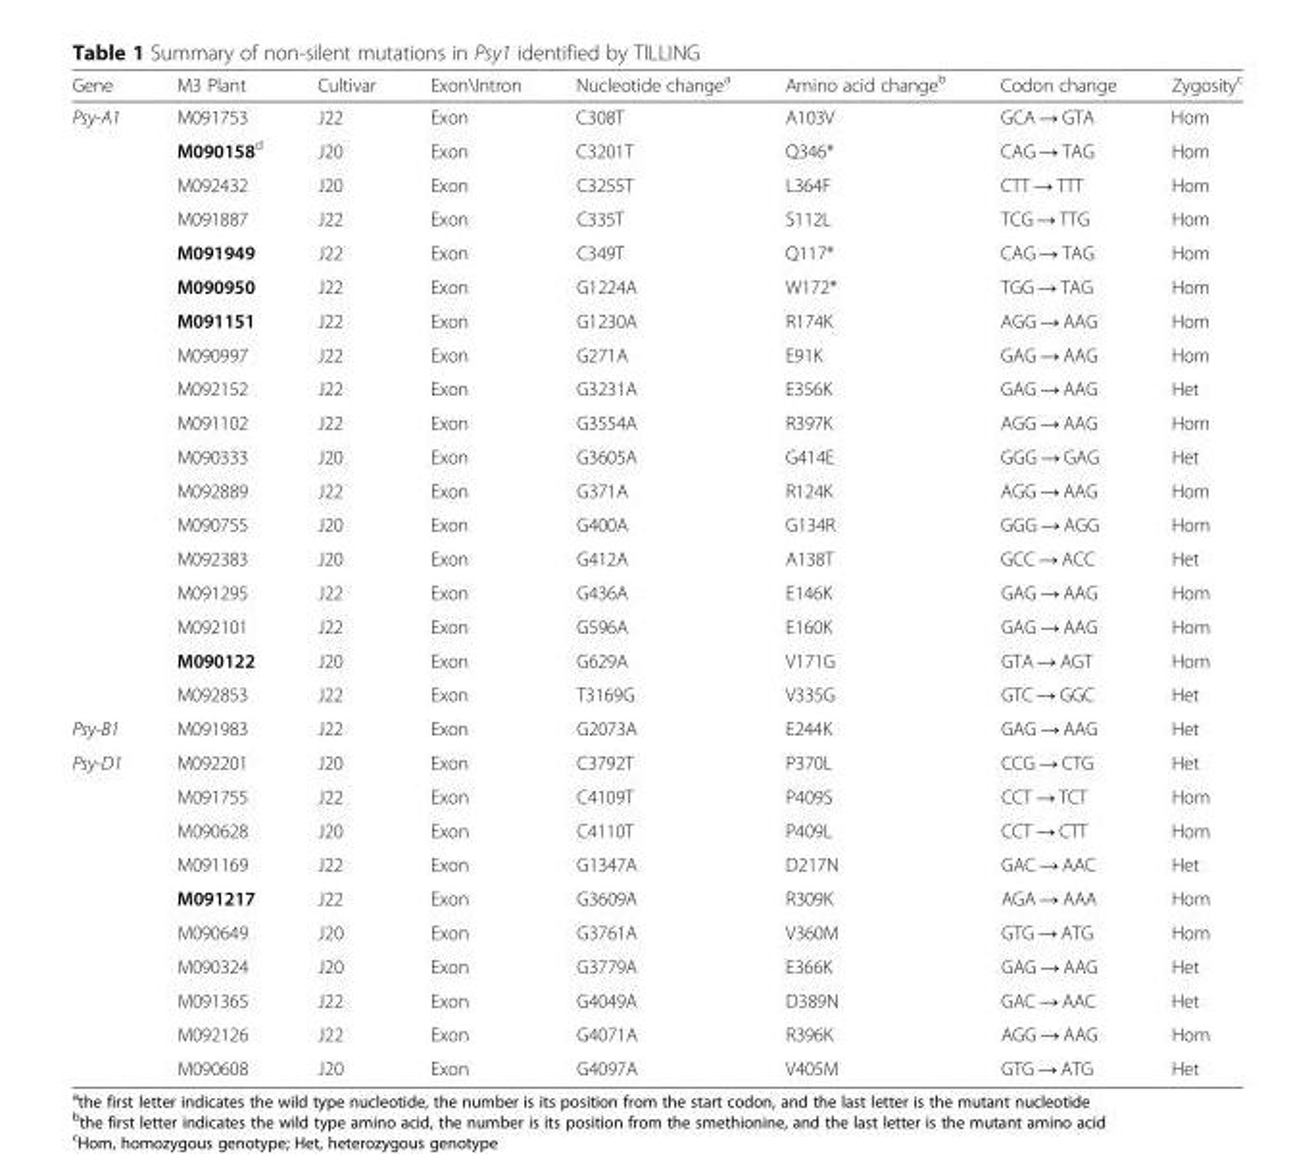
<table><thead><tr><td>Gene</td><td>M3 Plant</td><td>Cultivar</td><td>Exon\Intron</td><td>Nucleotide change<sup>a</sup></td><td>Amino acid change<sup>b</sup></td><td>Codon change</td><td>Zygosity<sup>c</sup></td></tr></thead><tbody><tr><td rowspan="18">Psy-A1</td><td>M091753</td><td>J22</td><td>Exon</td><td>C308T</td><td>A103V</td><td>GCA → GTA</td><td>Hom</td></tr><tr><td>M090158<sup>d</sup></td><td>J20</td><td>Exon</td><td>C3201T</td><td>Q346*</td><td>CAG → TAG</td><td>Hom</td></tr><tr><td>M092432</td><td>J20</td><td>Exon</td><td>C3255T</td><td>L364F</td><td>CTT → TTT</td><td>Hom</td></tr><tr><td>M091887</td><td>J22</td><td>Exon</td><td>C335T</td><td>S112L</td><td>TCG → TTG</td><td>Hom</td></tr><tr><td>M091949</td><td>J22</td><td>Exon</td><td>C349T</td><td>Q117*</td><td>CAG → TAG</td><td>Hom</td></tr><tr><td>M090950</td><td>J22</td><td>Exon</td><td>G1224A</td><td>W172*</td><td>TGG → TAG</td><td>Hom</td></tr><tr><td>M091151</td><td>J22</td><td>Exon</td><td>G1230A</td><td>R174K</td><td>AGG → AAG</td><td>Hom</td></tr><tr><td>M090997</td><td>J22</td><td>Exon</td><td>G271A</td><td>E91K</td><td>GAG → AAG</td><td>Hom</td></tr><tr><td>M092152</td><td>J22</td><td>Exon</td><td>G3231A</td><td>E356K</td><td>GAG → AAG</td><td>Het</td></tr><tr><td>M091102</td><td>J22</td><td>Exon</td><td>G3554A</td><td>R397K</td><td>AGG → AAG</td><td>Hom</td></tr><tr><td>M090333</td><td>J20</td><td>Exon</td><td>G3605A</td><td>G414E</td><td>GGG → GAG</td><td>Het</td></tr><tr><td>M092889</td><td>J22</td><td>Exon</td><td>G371A</td><td>R124K</td><td>AGG → AAG</td><td>Hom</td></tr><tr><td>M090755</td><td>J20</td><td>Exon</td><td>G400A</td><td>G134R</td><td>GGG → AGG</td><td>Hom</td></tr><tr><td>M092383</td><td>J20</td><td>Exon</td><td>G412A</td><td>A138T</td><td>GCC → ACC</td><td>Het</td></tr><tr><td>M091295</td><td>J22</td><td>Exon</td><td>G436A</td><td>E146K</td><td>GAG → AAG</td><td>Hom</td></tr><tr><td>M092101</td><td>J22</td><td>Exon</td><td>G596A</td><td>E160K</td><td>GAG → AAG</td><td>Hom</td></tr><tr><td>M090122</td><td>J20</td><td>Exon</td><td>G629A</td><td>V171G</td><td>GTA → AGT</td><td>Hom</td></tr><tr><td>M092853</td><td>J22</td><td>Exon</td><td>T3169G</td><td>V335G</td><td>GTC → GGC</td><td>Het</td></tr><tr><td>Psy-B1</td><td>M091983</td><td>J22</td><td>Exon</td><td>G2073A</td><td>E244K</td><td>GAG → AAG</td><td>Het</td></tr><tr><td rowspan="10">Psy-D1</td><td>M092201</td><td>J20</td><td>Exon</td><td>C3792T</td><td>P370L</td><td>CCG → CTG</td><td>Het</td></tr><tr><td>M091755</td><td>J22</td><td>Exon</td><td>C4109T</td><td>P409S</td><td>CCT → TCT</td><td>Hom</td></tr><tr><td>M090628</td><td>J20</td><td>Exon</td><td>C4110T</td><td>P409L</td><td>CCT → CTT</td><td>Hom</td></tr><tr><td>M091169</td><td>J22</td><td>Exon</td><td>G1347A</td><td>D217N</td><td>GAC → AAC</td><td>Het</td></tr><tr><td>M091217</td><td>J22</td><td>Exon</td><td>G3609A</td><td>R309K</td><td>AGA → AAA</td><td>Hom</td></tr><tr><td>M090649</td><td>J20</td><td>Exon</td><td>G3761A</td><td>V360M</td><td>GTG → ATG</td><td>Hom</td></tr><tr><td>M090324</td><td>J20</td><td>Exon</td><td>G3779A</td><td>E366K</td><td>GAG → AAG</td><td>Het</td></tr><tr><td>M091365</td><td>J22</td><td>Exon</td><td>G4049A</td><td>D389N</td><td>GAC → AAC</td><td>Het</td></tr><tr><td>M092126</td><td>J22</td><td>Exon</td><td>G4071A</td><td>R396K</td><td>AGG → AAG</td><td>Hom</td></tr><tr><td>M090608</td><td>J20</td><td>Exon</td><td>G4097A</td><td>V405M</td><td>GTG → ATG</td><td>Het</td></tr></tbody></table>